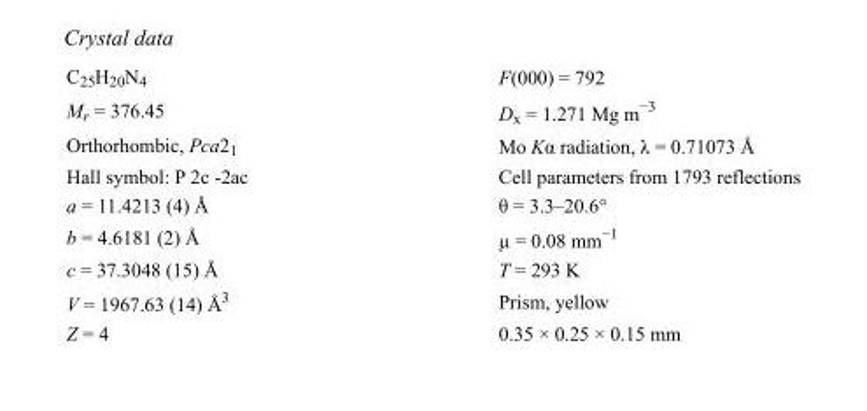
<table><tbody><tr><td>C<sub>25</sub>H<sub>20</sub>N<sub>4</sub></td><td>F(000) = 792</td></tr><tr><td>M<sub>r</sub> = 376.45</td><td>D<sub>x</sub> = 1.271 Mg m<sup>−3</sup></td></tr><tr><td>Orthorhombic, Pca2<sub>1</sub></td><td>Mo Kα radiation, λ = 0.71073 Å</td></tr><tr><td>Hall symbol: P 2c -2ac</td><td>Cell parameters from 1793 reflections</td></tr><tr><td>a = 11.4213 (4) Å</td><td>θ = 3.3–20.6°</td></tr><tr><td>b = 4.6181 (2) Å</td><td>µ = 0.08 mm<sup>−1</sup></td></tr><tr><td>c = 37.3048 (15) Å</td><td>T = 293 K</td></tr><tr><td>V = 1967.63 (14) Å<sup>3</sup></td><td>Prism, yellow</td></tr><tr><td>Z = 4</td><td>0.35 × 0.25 × 0.15 mm</td></tr></tbody></table>